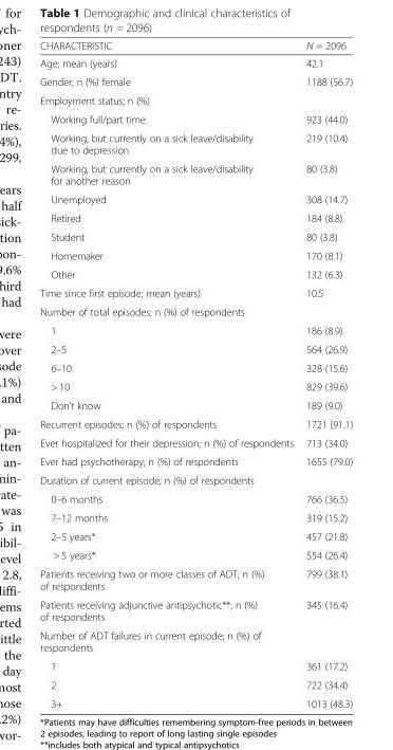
<table><thead><tr><td>CHARACTERISTIC</td><td>N = 2096</td></tr></thead><tbody><tr><td>Age; mean (years)</td><td>42.1</td></tr><tr><td>Gender; n (%) female</td><td>1188 (56.7)</td></tr><tr><td colspan="2">Employment status; n (%)</td></tr><tr><td>Working full/part time</td><td>923 (44.0)</td></tr><tr><td>Working, but currently on a sick leave/disability due to depression</td><td>219 (10.4)</td></tr><tr><td>Working, but currently on a sick leave/disability for another reason</td><td>80 (3.8)</td></tr><tr><td>Unemployed</td><td>308 (14.7)</td></tr><tr><td>Retired</td><td>184 (8.8)</td></tr><tr><td>Student</td><td>80 (3.8)</td></tr><tr><td>Homemaker</td><td>170 (8.1)</td></tr><tr><td>Other</td><td>132 (6.3)</td></tr><tr><td>Time since first episode; mean (years)</td><td>10.5</td></tr><tr><td colspan="2">Number of total episodes; n (%) of respondents</td></tr><tr><td>1</td><td>186 (8.9)</td></tr><tr><td>2–5</td><td>564 (26.9)</td></tr><tr><td>6–10</td><td>328 (15.6)</td></tr><tr><td>&gt; 10</td><td>829 (39.6)</td></tr><tr><td>Don’t know</td><td>189 (9.0)</td></tr><tr><td>Recurrent episodes; n (%) of respondents</td><td>1721 (91.1)</td></tr><tr><td>Ever hospitalized for their depression; n (%) of respondents</td><td>713 (34.0)</td></tr><tr><td>Ever had psychotherapy; n (%) of respondents</td><td>1655 (79.0)</td></tr><tr><td colspan="2">Duration of current episode; n (%) of respondents</td></tr><tr><td>0–6 months</td><td>766 (36.5)</td></tr><tr><td>7–12 months</td><td>319 (15.2)</td></tr><tr><td>2–5 years*</td><td>457 (21.8)</td></tr><tr><td>&gt; 5 years*</td><td>554 (26.4)</td></tr><tr><td>Patients receiving two or more classes of ADT; n (%) of respondents</td><td>799 (38.1)</td></tr><tr><td>Patients receiving adjunctive antipsychotic**; n (%) of respondents</td><td>345 (16.4)</td></tr><tr><td colspan="2">Number of ADT failures in current episode; n (%) of respondents</td></tr><tr><td>1</td><td>361 (17.2)</td></tr><tr><td>2</td><td>722 (34.4)</td></tr><tr><td>3+</td><td>1013 (48.3)</td></tr></tbody></table>